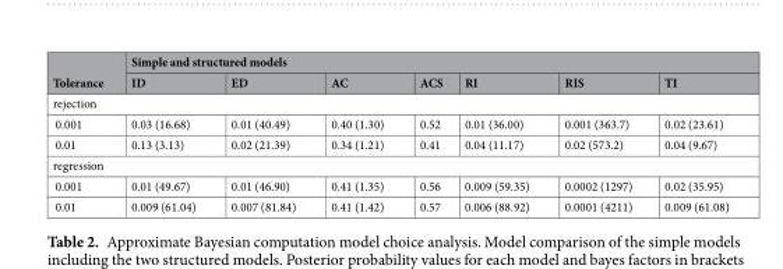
<table><thead><tr><td rowspan="2">Tolerance</td><td colspan="7">Simple and structured models</td></tr><tr><td>ID</td><td>ED</td><td>AC</td><td>ACS</td><td>RI</td><td>RIS</td><td>TI</td></tr></thead><tbody><tr><td colspan="8">rejection</td></tr><tr><td>0.001</td><td>0.03 (16.68)</td><td>0.01 (40.49)</td><td>0.40 (1.30)</td><td>0.52</td><td>0.01 (36.00)</td><td>0.001 (363.7)</td><td>0.02 (23.61)</td></tr><tr><td>0.01</td><td>0.13 (3.13)</td><td>0.02 (21.39)</td><td>0.34 (1.21)</td><td>0.41</td><td>0.04 (11.17)</td><td>0.02 (573.2)</td><td>0.04 (9.67)</td></tr><tr><td colspan="8">regression</td></tr><tr><td>0.001</td><td>0.01 (49.67)</td><td>0.01 (46.90)</td><td>0.41 (1.35)</td><td>0.56</td><td>0.009 (59.35)</td><td>0.0002 (1297)</td><td>0.02 (35.95)</td></tr><tr><td>0.01</td><td>0.009 (61.04)</td><td>0.007 (81.84)</td><td>0.41 (1.42)</td><td>0.57</td><td>0.006 (88.92)</td><td>0.0001 (4211)</td><td>0.009 (61.08)</td></tr></tbody></table>